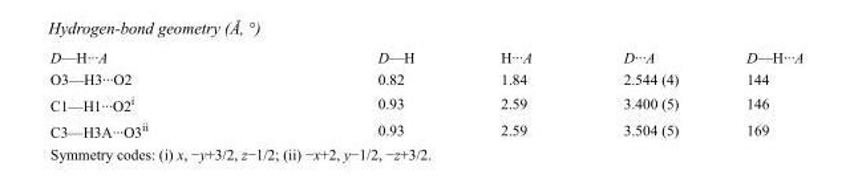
<table><tbody><tr><td>D—H···A</td><td>D—H</td><td>H···A</td><td>D···A</td><td>D—H···A</td></tr><tr><td>O3—H3···O2</td><td>0.82</td><td>1.84</td><td>2.544 (4)</td><td>144</td></tr><tr><td>C1—H1···O2<sup>i</sup></td><td>0.93</td><td>2.59</td><td>3.400 (5)</td><td>146</td></tr><tr><td>C3—H3A···O3<sup>ii</sup></td><td>0.93</td><td>2.59</td><td>3.504 (5)</td><td>169</td></tr></tbody></table>